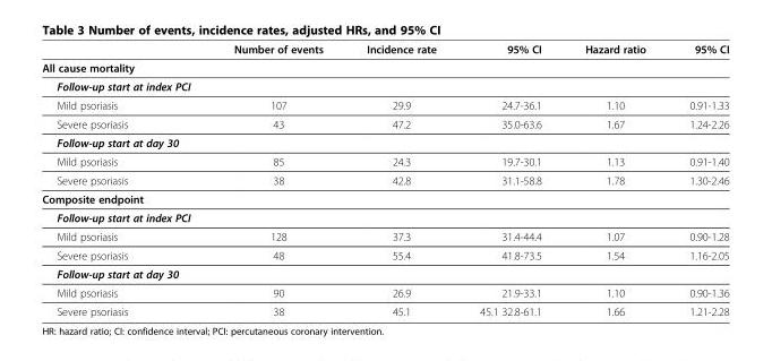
<table><thead><tr><td></td><td>Number of events</td><td>Incidence rate</td><td>95% CI</td><td>Hazard ratio</td><td>95% CI</td></tr></thead><tbody><tr><td colspan="6">All cause mortality</td></tr><tr><td colspan="6">Follow-up start at index PCI</td></tr><tr><td>Mild psoriasis</td><td>107</td><td>29.9</td><td>24.7-36.1</td><td>1.10</td><td>0.91-1.33</td></tr><tr><td>Severe psoriasis</td><td>43</td><td>47.2</td><td>35.0-63.6</td><td>1.67</td><td>1.24-2.26</td></tr><tr><td colspan="6">Follow-up start at day 30</td></tr><tr><td>Mild psoriasis</td><td>85</td><td>24.3</td><td>19.7-30.1</td><td>1.13</td><td>0.91-1.40</td></tr><tr><td>Severe psoriasis</td><td>38</td><td>42.8</td><td>31.1-58.8</td><td>1.78</td><td>1.30-2.46</td></tr><tr><td colspan="6">Composite endpoint</td></tr><tr><td colspan="6">Follow-up start at index PCI</td></tr><tr><td>Mild psoriasis</td><td>128</td><td>37.3</td><td>31.4-44.4</td><td>1.07</td><td>0.90-1.28</td></tr><tr><td>Severe psoriasis</td><td>48</td><td>55.4</td><td>41.8-73.5</td><td>1.54</td><td>1.16-2.05</td></tr><tr><td colspan="6">Follow-up start at day 30</td></tr><tr><td>Mild psoriasis</td><td>90</td><td>26.9</td><td>21.9-33.1</td><td>1.10</td><td>0.90-1.36</td></tr><tr><td>Severe psoriasis</td><td>38</td><td>45.1</td><td>45.1 32.8-61.1</td><td>1.66</td><td>1.21-2.28</td></tr></tbody></table>